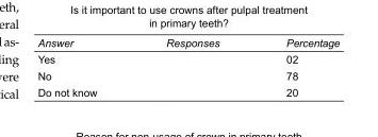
<table><tbody><tr><td>Answer</td><td>Responses</td><td>Percentage</td></tr><tr><td>Yes</td><td></td><td>02</td></tr><tr><td>No</td><td></td><td>78</td></tr><tr><td>Do not know</td><td></td><td>20</td></tr></tbody></table>